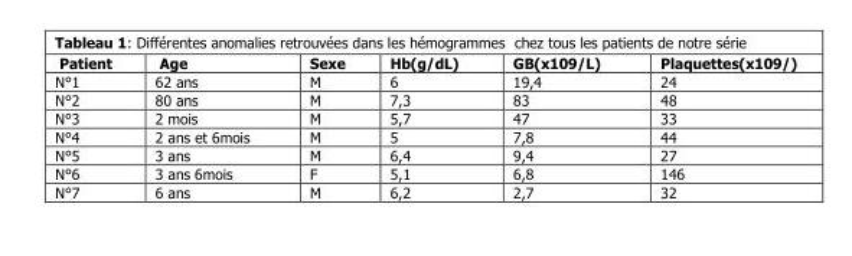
<table><thead><tr><td>Patient</td><td>Age</td><td>Sexe</td><td>Hb(g/dL)</td><td>GB(x109/L)</td><td>Plaquettes(x109/)</td></tr></thead><tbody><tr><td>N°1</td><td>62 ans</td><td>M</td><td>6</td><td>19,4</td><td>24</td></tr><tr><td>N°2</td><td>80 ans</td><td>M</td><td>7,3</td><td>83</td><td>48</td></tr><tr><td>N°3</td><td>2 mois</td><td>M</td><td>5,7</td><td>47</td><td>33</td></tr><tr><td>N°4</td><td>2 ans et 6mois</td><td>M</td><td>5</td><td>7,8</td><td>44</td></tr><tr><td>N°5</td><td>3 ans</td><td>M</td><td>6,4</td><td>9,4</td><td>27</td></tr><tr><td>N°6</td><td>3 ans 6mois</td><td>F</td><td>5,1</td><td>6,8</td><td>146</td></tr><tr><td>N°7</td><td>6 ans</td><td>M</td><td>6,2</td><td>2,7</td><td>32</td></tr></tbody></table>